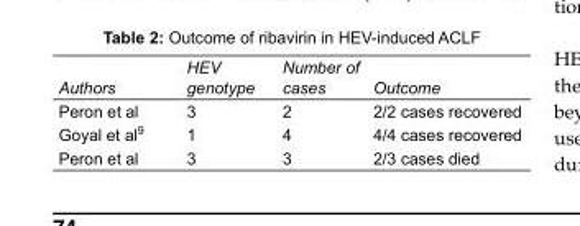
<table><tbody><tr><td>Authors</td><td>HEV genotype</td><td>Number of cases</td><td>Outcome</td></tr><tr><td>Peron et al</td><td>3</td><td>2</td><td>2/2 cases recovered</td></tr><tr><td>Goyal et al<sup>9</sup></td><td>1</td><td>4</td><td>4/4 cases recovered</td></tr><tr><td>Peron et al</td><td>3</td><td>3</td><td>2/3 cases died</td></tr></tbody></table>